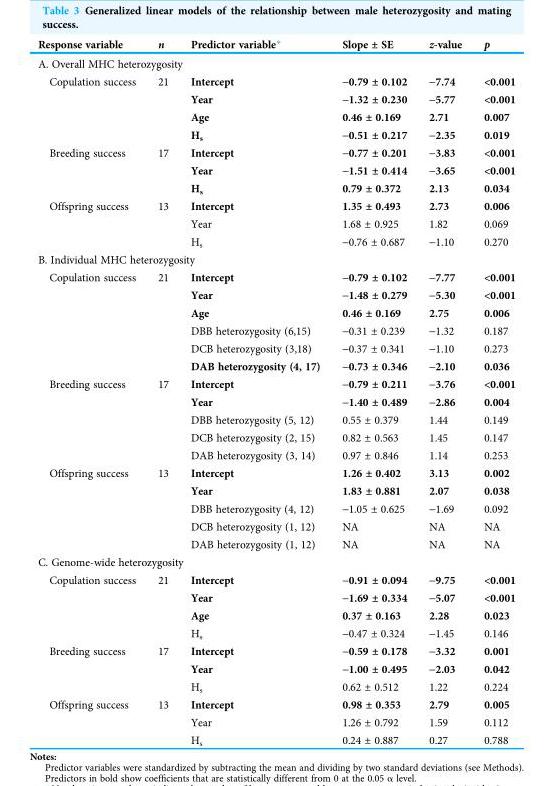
<table><thead><tr><td>Response variable</td><td>n</td><td>Predictor variable*</td><td>Slope ± SE</td><td>z-value</td><td>p</td></tr></thead><tbody><tr><td colspan="6">A. Overall MHC heterozygosity</td></tr><tr><td rowspan="4">Copulation success</td><td>21</td><td>Intercept</td><td>-0.79 ± 0.102</td><td>-7.74</td><td>&lt;0.001</td></tr><tr><td></td><td>Year</td><td>-1.32 ± 0.230</td><td>-5.77</td><td>&lt;0.001</td></tr><tr><td></td><td>Age</td><td>0.46 ± 0.169</td><td>2.71</td><td>0.007</td></tr><tr><td></td><td>H<sub>s</sub></td><td>-0.51 ± 0.217</td><td>-2.35</td><td>0.019</td></tr><tr><td rowspan="3">Breeding success</td><td>17</td><td>Intercept</td><td>-0.77 ± 0.201</td><td>-3.83</td><td>&lt;0.001</td></tr><tr><td></td><td>Year</td><td>-1.51 ± 0.414</td><td>-3.65</td><td>&lt;0.001</td></tr><tr><td></td><td>H<sub>s</sub></td><td>0.79 ± 0.372</td><td>2.13</td><td>0.034</td></tr><tr><td rowspan="3">Offspring success</td><td>13</td><td>Intercept</td><td>1.35 ± 0.493</td><td>2.73</td><td>0.006</td></tr><tr><td></td><td>Year</td><td>1.68 ± 0.925</td><td>1.82</td><td>0.069</td></tr><tr><td></td><td>H<sub>s</sub></td><td>-0.76 ± 0.687</td><td>-1.10</td><td>0.270</td></tr><tr><td colspan="6">B. Individual MHC heterozygosity</td></tr><tr><td rowspan="6">Copulation success</td><td>21</td><td>Intercept</td><td>-0.79 ± 0.102</td><td>-7.77</td><td>&lt;0.001</td></tr><tr><td></td><td>Year</td><td>-1.48 ± 0.279</td><td>-5.30</td><td>&lt;0.001</td></tr><tr><td></td><td>Age</td><td>0.46 ± 0.169</td><td>2.75</td><td>0.006</td></tr><tr><td></td><td>DBB heterozygosity (6,15)</td><td>-0.31 ± 0.239</td><td>-1.32</td><td>0.187</td></tr><tr><td></td><td>DCB heterozygosity (3,18)</td><td>-0.37 ± 0.341</td><td>-1.10</td><td>0.273</td></tr><tr><td></td><td>DAB heterozygosity (4, 17)</td><td>-0.73 ± 0.346</td><td>-2.10</td><td>0.036</td></tr><tr><td rowspan="5">Breeding success</td><td>17</td><td>Intercept</td><td>-0.79 ± 0.211</td><td>-3.76</td><td>&lt;0.001</td></tr><tr><td></td><td>Year</td><td>-1.40 ± 0.489</td><td>-2.86</td><td>0.004</td></tr><tr><td></td><td>DBB heterozygosity (5, 12)</td><td>0.55 ± 0.379</td><td>1.44</td><td>0.149</td></tr><tr><td></td><td>DCB heterozygosity (2, 15)</td><td>0.82 ± 0.563</td><td>1.45</td><td>0.147</td></tr><tr><td></td><td>DAB heterozygosity (3, 14)</td><td>0.97 ± 0.846</td><td>1.14</td><td>0.253</td></tr><tr><td rowspan="5">Offspring success</td><td>13</td><td>Intercept</td><td>1.26 ± 0.402</td><td>3.13</td><td>0.002</td></tr><tr><td></td><td>Year</td><td>1.83 ± 0.881</td><td>2.07</td><td>0.038</td></tr><tr><td></td><td>DBB heterozygosity (4, 12)</td><td>-1.05 ± 0.625</td><td>-1.69</td><td>0.092</td></tr><tr><td></td><td>DCB heterozygosity (1, 12)</td><td>NA</td><td>NA</td><td>NA</td></tr><tr><td></td><td>DAB heterozygosity (1, 12)</td><td>NA</td><td>NA</td><td>NA</td></tr><tr><td colspan="6">C. Genome-wide heterozygosity</td></tr><tr><td rowspan="4">Copulation success</td><td>21</td><td>Intercept</td><td>-0.91 ± 0.094</td><td>-9.75</td><td>&lt;0.001</td></tr><tr><td></td><td>Year</td><td>-1.69 ± 0.334</td><td>-5.07</td><td>&lt;0.001</td></tr><tr><td></td><td>Age</td><td>0.37 ± 0.163</td><td>2.28</td><td>0.023</td></tr><tr><td></td><td>H<sub>s</sub></td><td>-0.47 ± 0.324</td><td>-1.45</td><td>0.146</td></tr><tr><td rowspan="3">Breeding success</td><td>17</td><td>Intercept</td><td>-0.59 ± 0.178</td><td>-3.32</td><td>0.001</td></tr><tr><td></td><td>Year</td><td>-1.00 ± 0.495</td><td>-2.03</td><td>0.042</td></tr><tr><td></td><td>H<sub>s</sub></td><td>0.62 ± 0.512</td><td>1.22</td><td>0.224</td></tr><tr><td rowspan="3">Offspring success</td><td>13</td><td>Intercept</td><td>0.98 ± 0.353</td><td>2.79</td><td>0.005</td></tr><tr><td></td><td>Year</td><td>1.26 ± 0.792</td><td>1.59</td><td>0.112</td></tr><tr><td></td><td>H<sub>s</sub></td><td>0.24 ± 0.887</td><td>0.27</td><td>0.788</td></tr></tbody></table>